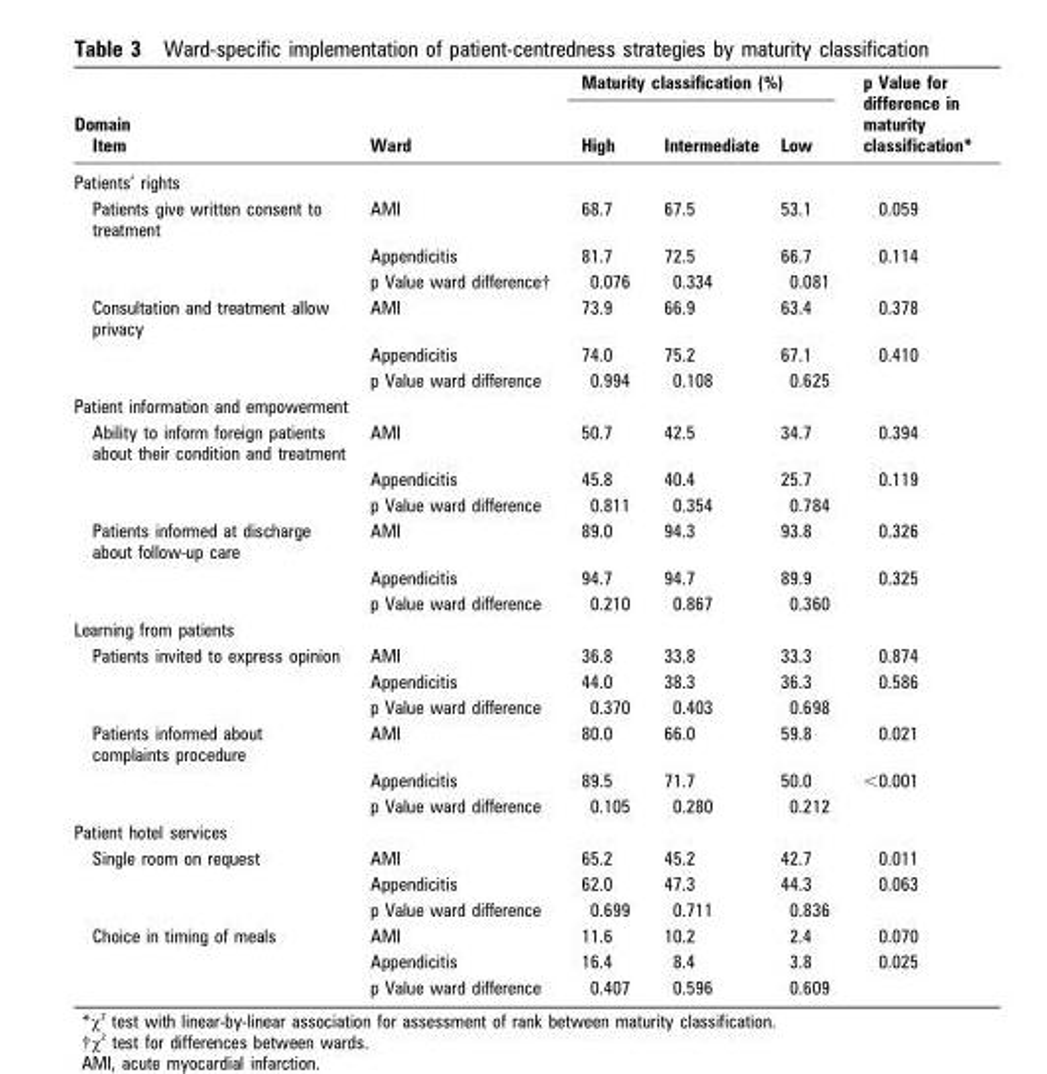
<table><thead><tr><td rowspan="2">Domain Item</td><td rowspan="2">Ward</td><td colspan="3">Maturity classification (%)</td><td rowspan="2">p Value for difference in maturity classification*</td></tr><tr><td>High</td><td>Intermediate</td><td>Low</td></tr></thead><tbody><tr><td colspan="6">Patients’ rights</td></tr><tr><td rowspan="3">Patients give written consent to treatment</td><td>AMI</td><td>68.7</td><td>67.5</td><td>53.1</td><td>0.059</td></tr><tr><td>Appendicitis</td><td>81.7</td><td>72.5</td><td>66.7</td><td>0.114</td></tr><tr><td>p Value ward difference†</td><td>0.076</td><td>0.334</td><td>0.081</td><td></td></tr><tr><td rowspan="3">Consultation and treatment allow privacy</td><td>AMI</td><td>73.9</td><td>66.9</td><td>63.4</td><td>0.378</td></tr><tr><td>Appendicitis</td><td>74.0</td><td>75.2</td><td>67.1</td><td>0.410</td></tr><tr><td>p Value ward difference</td><td>0.994</td><td>0.108</td><td>0.625</td><td></td></tr><tr><td colspan="6">Patient information and empowerment</td></tr><tr><td rowspan="3">Ability to inform foreign patients about their condition and treatment</td><td>AMI</td><td>50.7</td><td>42.5</td><td>34.7</td><td>0.394</td></tr><tr><td>Appendicitis</td><td>45.8</td><td>40.4</td><td>25.7</td><td>0.119</td></tr><tr><td>p Value ward difference</td><td>0.811</td><td>0.354</td><td>0.784</td><td></td></tr><tr><td rowspan="3">Patients informed at discharge about follow-up care</td><td>AMI</td><td>89.0</td><td>94.3</td><td>93.8</td><td>0.326</td></tr><tr><td>Appendicitis</td><td>94.7</td><td>94.7</td><td>89.9</td><td>0.325</td></tr><tr><td>p Value ward difference</td><td>0.210</td><td>0.867</td><td>0.360</td><td></td></tr><tr><td colspan="6">Learning from patients</td></tr><tr><td rowspan="3">Patients invited to express opinion</td><td>AMI</td><td>36.8</td><td>33.8</td><td>33.3</td><td>0.874</td></tr><tr><td>Appendicitis</td><td>44.0</td><td>38.3</td><td>36.3</td><td>0.586</td></tr><tr><td>p Value ward difference</td><td>0.370</td><td>0.403</td><td>0.698</td><td></td></tr><tr><td rowspan="3">Patients informed about complaints procedure</td><td>AMI</td><td>80.0</td><td>66.0</td><td>59.8</td><td>0.021</td></tr><tr><td>Appendicitis</td><td>89.5</td><td>71.7</td><td>50.0</td><td>&lt;0.001</td></tr><tr><td>p Value ward difference</td><td>0.105</td><td>0.280</td><td>0.212</td><td></td></tr><tr><td colspan="6">Patient hotel services</td></tr><tr><td rowspan="3">Single room on request</td><td>AMI</td><td>65.2</td><td>45.2</td><td>42.7</td><td>0.011</td></tr><tr><td>Appendicitis</td><td>62.0</td><td>47.3</td><td>44.3</td><td>0.063</td></tr><tr><td>p Value ward difference</td><td>0.699</td><td>0.711</td><td>0.836</td><td></td></tr><tr><td rowspan="3">Choice in timing of meals</td><td>AMI</td><td>11.6</td><td>10.2</td><td>2.4</td><td>0.070</td></tr><tr><td>Appendicitis</td><td>16.4</td><td>8.4</td><td>3.8</td><td>0.025</td></tr><tr><td>p Value ward difference</td><td>0.407</td><td>0.596</td><td>0.609</td><td></td></tr></tbody></table>